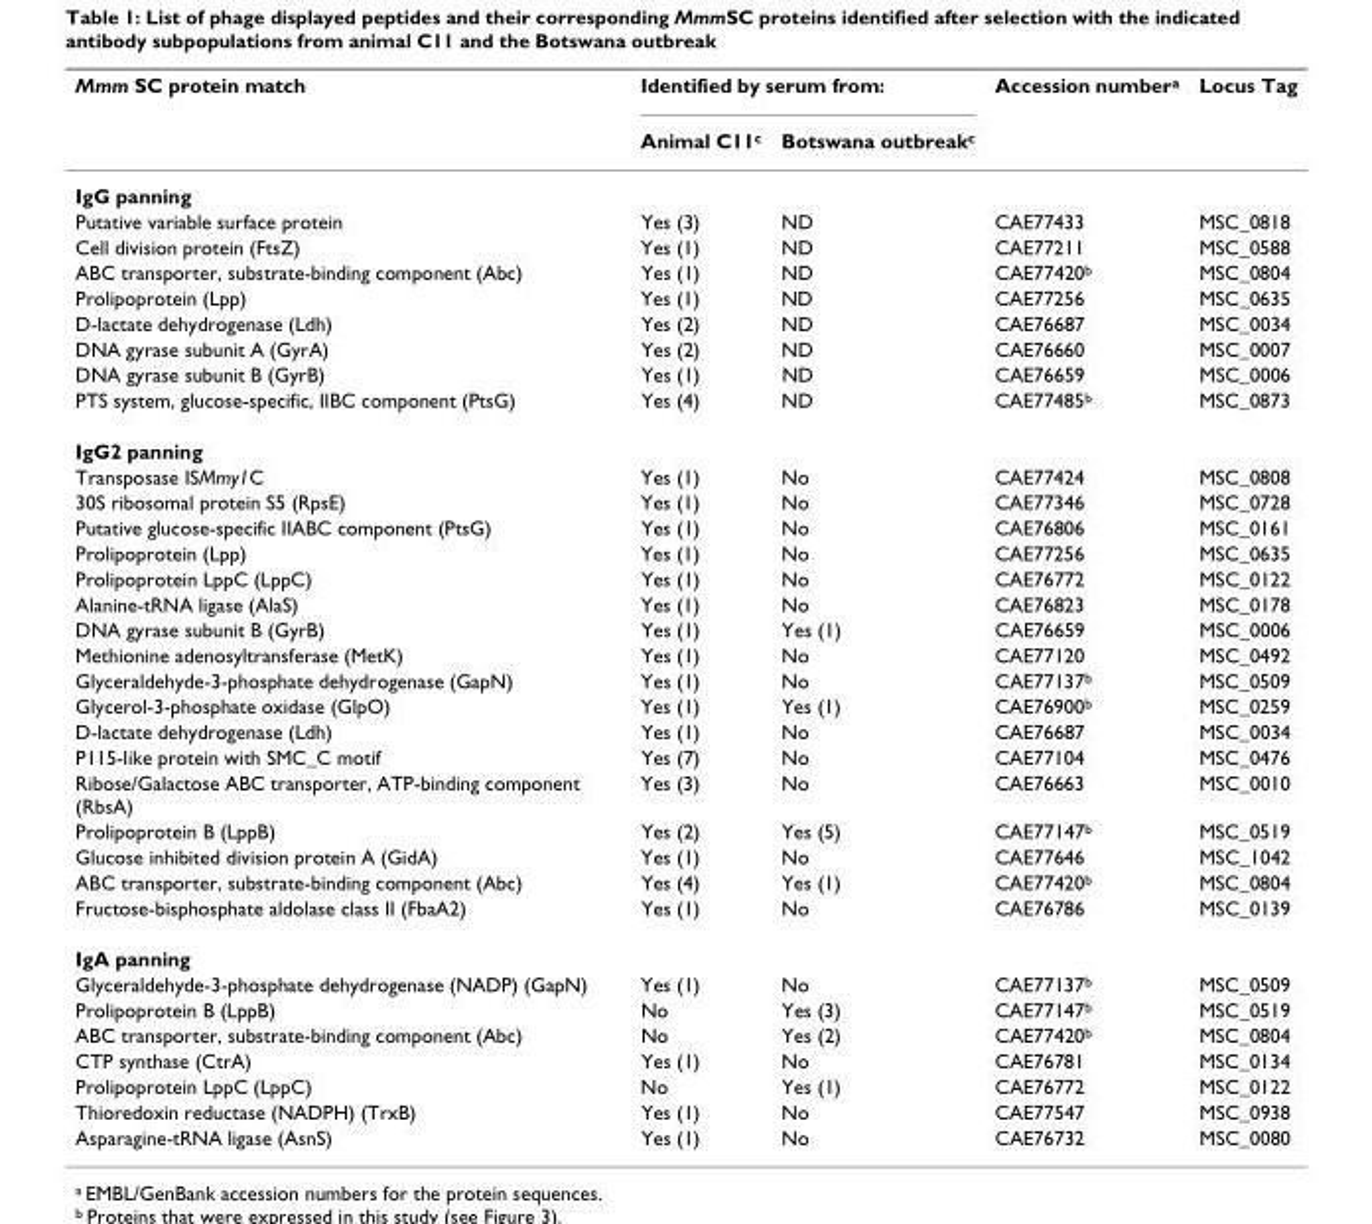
<table><thead><tr><td rowspan="2">Mmm SC protein match</td><td colspan="2">Identified by serum from:</td><td rowspan="2">Accession number<sup>a</sup></td><td rowspan="2">Locus Tag</td></tr><tr><td>Animal C11<sup>c</sup></td><td>Botswana outbreak<sup>c</sup></td></tr></thead><tbody><tr><td colspan="5">IgG panning</td></tr><tr><td>Putative variable surface protein</td><td>Yes (3)</td><td>ND</td><td>CAE77433</td><td>MSC_0818</td></tr><tr><td>Cell division protein (FtsZ)</td><td>Yes (1)</td><td>ND</td><td>CAE77211</td><td>MSC_0588</td></tr><tr><td>ABC transporter, substrate-binding component (Abc)</td><td>Yes (1)</td><td>ND</td><td>CAE77420<sup>b</sup></td><td>MSC_0804</td></tr><tr><td>Prolipoprotein (Lpp)</td><td>Yes (1)</td><td>ND</td><td>CAE77256</td><td>MSC_0635</td></tr><tr><td>D-lactate dehydrogenase (Ldh)</td><td>Yes (2)</td><td>ND</td><td>CAE76687</td><td>MSC_0034</td></tr><tr><td>DNA gyrase subunit A (GyrA)</td><td>Yes (2)</td><td>ND</td><td>CAE76660</td><td>MSC_0007</td></tr><tr><td>DNA gyrase subunit B (GyrB)</td><td>Yes (1)</td><td>ND</td><td>CAE76659</td><td>MSC_0006</td></tr><tr><td>PTS system, glucose-specific, IIBC component (PtsG)</td><td>Yes (4)</td><td>ND</td><td>CAE77485<sup>b</sup></td><td>MSC_0873</td></tr><tr><td colspan="5">IgG2 panning</td></tr><tr><td>Transposase ISMmy1C</td><td>Yes (1)</td><td>No</td><td>CAE77424</td><td>MSC_0808</td></tr><tr><td>30S ribosomal protein S5 (RpsE)</td><td>Yes (1)</td><td>No</td><td>CAE77346</td><td>MSC_0728</td></tr><tr><td>Putative glucose-specific IIABC component (PtsG)</td><td>Yes (1)</td><td>No</td><td>CAE76806</td><td>MSC_0161</td></tr><tr><td>Prolipoprotein (Lpp)</td><td>Yes (1)</td><td>No</td><td>CAE77256</td><td>MSC_0635</td></tr><tr><td>Prolipoprotein LppC (LppC)</td><td>Yes (1)</td><td>No</td><td>CAE76772</td><td>MSC_0122</td></tr><tr><td>Alanine-tRNA ligase (AlaS)</td><td>Yes (1)</td><td>No</td><td>CAE76823</td><td>MSC_0178</td></tr><tr><td>DNA gyrase subunit B (GyrB)</td><td>Yes (1)</td><td>Yes (1)</td><td>CAE76659</td><td>MSC_0006</td></tr><tr><td>Methionine adenosyltransferase (MetK)</td><td>Yes (1)</td><td>No</td><td>CAE77120</td><td>MSC_0492</td></tr><tr><td>Glyceraldehyde-3-phosphate dehydrogenase (GapN)</td><td>Yes (1)</td><td>No</td><td>CAE77137<sup>b</sup></td><td>MSC_0509</td></tr><tr><td>Glycerol-3-phosphate oxidase (GlpO)</td><td>Yes (1)</td><td>Yes (1)</td><td>CAE76900<sup>b</sup></td><td>MSC_0259</td></tr><tr><td>D-lactate dehydrogenase (Ldh)</td><td>Yes (1)</td><td>No</td><td>CAE76687</td><td>MSC_0034</td></tr><tr><td>P115-like protein with SMC_C motif</td><td>Yes (7)</td><td>No</td><td>CAE77104</td><td>MSC_0476</td></tr><tr><td>Ribose/Galactose ABC transporter, ATP-binding component (RbsA)</td><td>Yes (3)</td><td>No</td><td>CAE76663</td><td>MSC_0010</td></tr><tr><td>Prolipoprotein B (LppB)</td><td>Yes (2)</td><td>Yes (5)</td><td>CAE77147<sup>b</sup></td><td>MSC_0519</td></tr><tr><td>Glucose inhibited division protein A (GidA)</td><td>Yes (1)</td><td>No</td><td>CAE77646</td><td>MSC_1042</td></tr><tr><td>ABC transporter, substrate-binding component (Abc)</td><td>Yes (4)</td><td>Yes (1)</td><td>CAE77420<sup>b</sup></td><td>MSC_0804</td></tr><tr><td>Fructose-bisphosphate aldolase class II (FbaA2)</td><td>Yes (1)</td><td>No</td><td>CAE76786</td><td>MSC_0139</td></tr><tr><td colspan="5">IgA panning</td></tr><tr><td>Glyceraldehyde-3-phosphate dehydrogenase (NADP) (GapN)</td><td>Yes (1)</td><td>No</td><td>CAE77137<sup>b</sup></td><td>MSC_0509</td></tr><tr><td>Prolipoprotein B (LppB)</td><td>No</td><td>Yes (3)</td><td>CAE77147<sup>b</sup></td><td>MSC_0519</td></tr><tr><td>ABC transporter, substrate-binding component (Abc)</td><td>No</td><td>Yes (2)</td><td>CAE77420<sup>b</sup></td><td>MSC_0804</td></tr><tr><td>CTP synthase (CtrA)</td><td>Yes (1)</td><td>No</td><td>CAE76781</td><td>MSC_0134</td></tr><tr><td>Prolipoprotein LppC (LppC)</td><td>No</td><td>Yes (1)</td><td>CAE76772</td><td>MSC_0122</td></tr><tr><td>Thioredoxin reductase (NADPH) (TrxB)</td><td>Yes (1)</td><td>No</td><td>CAE77547</td><td>MSC_0938</td></tr><tr><td>Asparagine-tRNA ligase (AsnS)</td><td>Yes (1)</td><td>No</td><td>CAE76732</td><td>MSC_0080</td></tr></tbody></table>